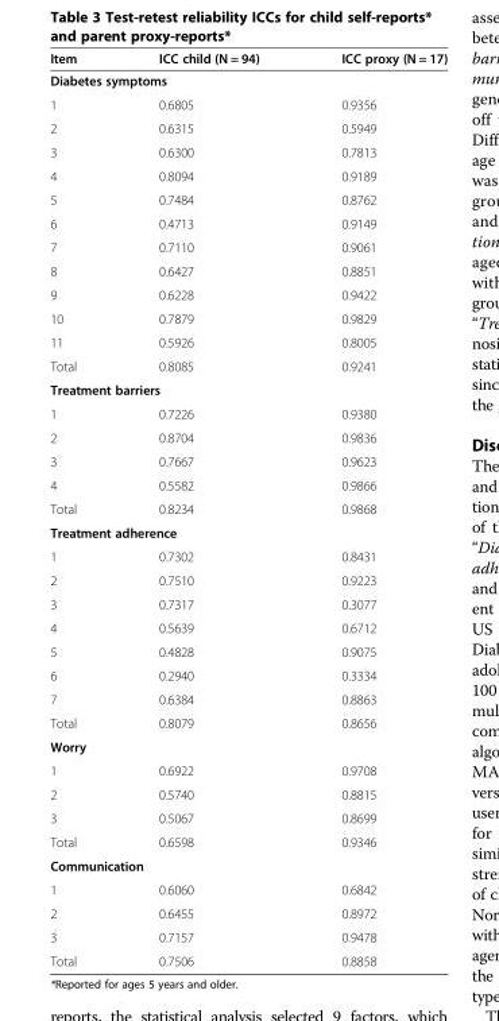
<table><thead><tr><td>Item</td><td>ICC child (N = 94)</td><td>ICC proxy (N = 17)</td></tr></thead><tbody><tr><td colspan="3">Diabetes symptoms</td></tr><tr><td>1</td><td>0.6805</td><td>0.9356</td></tr><tr><td>2</td><td>0.6315</td><td>0.5949</td></tr><tr><td>3</td><td>0.6300</td><td>0.7813</td></tr><tr><td>4</td><td>0.8094</td><td>0.9189</td></tr><tr><td>5</td><td>0.7484</td><td>0.8762</td></tr><tr><td>6</td><td>0.4713</td><td>0.9149</td></tr><tr><td>7</td><td>0.7110</td><td>0.9061</td></tr><tr><td>8</td><td>0.6427</td><td>0.8851</td></tr><tr><td>9</td><td>0.6228</td><td>0.9422</td></tr><tr><td>10</td><td>0.7879</td><td>0.9829</td></tr><tr><td>11</td><td>0.5926</td><td>0.8005</td></tr><tr><td>Total</td><td>0.8085</td><td>0.9241</td></tr><tr><td colspan="3">Treatment barriers</td></tr><tr><td>1</td><td>0.7226</td><td>0.9380</td></tr><tr><td>2</td><td>0.8704</td><td>0.9836</td></tr><tr><td>3</td><td>0.7667</td><td>0.9623</td></tr><tr><td>4</td><td>0.5582</td><td>0.9866</td></tr><tr><td>Total</td><td>0.8234</td><td>0.9868</td></tr><tr><td colspan="3">Treatment adherence</td></tr><tr><td>1</td><td>0.7302</td><td>0.8431</td></tr><tr><td>2</td><td>0.7510</td><td>0.9223</td></tr><tr><td>3</td><td>0.7317</td><td>0.3077</td></tr><tr><td>4</td><td>0.5639</td><td>0.6712</td></tr><tr><td>5</td><td>0.4828</td><td>0.9075</td></tr><tr><td>6</td><td>0.2940</td><td>0.3334</td></tr><tr><td>7</td><td>0.6384</td><td>0.8863</td></tr><tr><td>Total</td><td>0.8079</td><td>0.8656</td></tr><tr><td colspan="3">Worry</td></tr><tr><td>1</td><td>0.6922</td><td>0.9708</td></tr><tr><td>2</td><td>0.5740</td><td>0.8815</td></tr><tr><td>3</td><td>0.5067</td><td>0.8699</td></tr><tr><td>Total</td><td>0.6598</td><td>0.9346</td></tr><tr><td colspan="3">Communication</td></tr><tr><td>1</td><td>0.6060</td><td>0.6842</td></tr><tr><td>2</td><td>0.6455</td><td>0.8972</td></tr><tr><td>3</td><td>0.7157</td><td>0.9478</td></tr><tr><td>Total</td><td>0.7506</td><td>0.8858</td></tr></tbody></table>